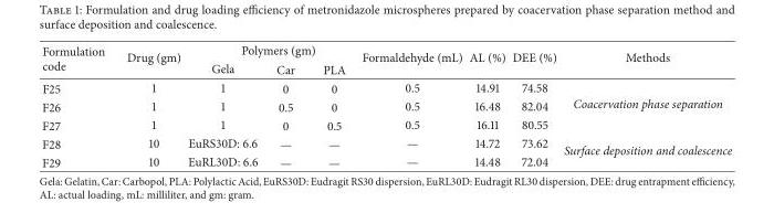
<table><thead><tr><td rowspan="2">Formulation code</td><td rowspan="2">Drug (gm)</td><td colspan="3">Polymers (gm)</td><td rowspan="2">Formaldehyde (mL)</td><td rowspan="2">AL (%)</td><td rowspan="2">DEE (%)</td><td rowspan="2">Methods</td></tr><tr><td>Gela</td><td>Car</td><td>PLA</td></tr></thead><tbody><tr><td>F25</td><td>1</td><td>1</td><td>0</td><td>0</td><td>0.5</td><td>14.91</td><td>74.58</td><td rowspan="3">Coacervation phase separation</td></tr><tr><td>F26</td><td>1</td><td>1</td><td>0.5</td><td>0</td><td>0.5</td><td>16.48</td><td>82.04</td></tr><tr><td>F27</td><td>1</td><td>1</td><td>0</td><td>0.5</td><td>0.5</td><td>16.11</td><td>80.55</td></tr><tr><td>F28</td><td>10</td><td>EuRS30D: 6.6</td><td>—</td><td>—</td><td>—</td><td>14.72</td><td>73.62</td><td rowspan="2">Surface deposition and coalescence</td></tr><tr><td>F29</td><td>10</td><td>EuRL30D: 6.6</td><td>—</td><td>—</td><td>—</td><td>14.48</td><td>72.04</td></tr></tbody></table>